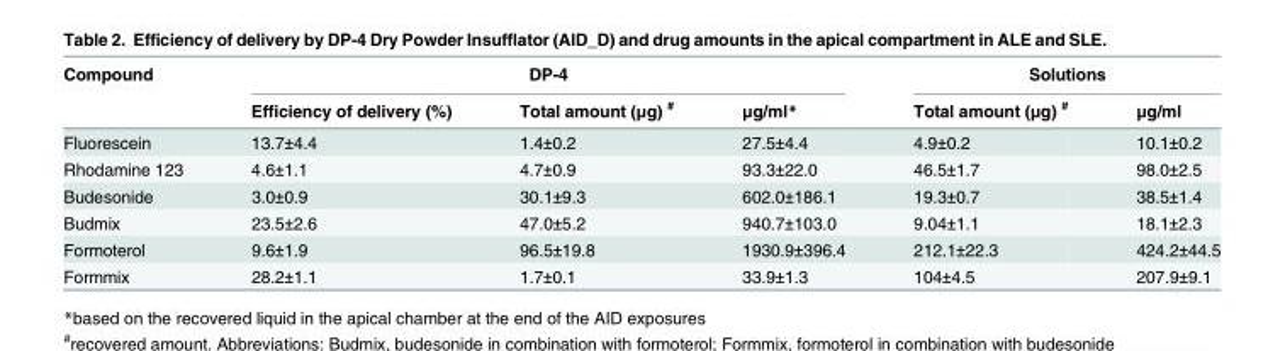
<table><thead><tr><td rowspan="2">Compound</td><td colspan="3">DP-4</td><td colspan="2">Solutions</td></tr><tr><td>Efficiency of delivery (%)</td><td>Total amount (μg) <sup>#</sup></td><td>μg/ml*</td><td>Total amount (μg) <sup>#</sup></td><td>μg/ml</td></tr></thead><tbody><tr><td>Fluorescein</td><td>13.7±4.4</td><td>1.4±0.2</td><td>27.5±4.4</td><td>4.9±0.2</td><td>10.1±0.2</td></tr><tr><td>Rhodamine 123</td><td>4.6±1.1</td><td>4.7±0.9</td><td>93.3±22.0</td><td>46.5±1.7</td><td>98.0±2.5</td></tr><tr><td>Budesonide</td><td>3.0±0.9</td><td>30.1±9.3</td><td>602.0±186.1</td><td>19.3±0.7</td><td>38.5±1.4</td></tr><tr><td>Budmix</td><td>23.5±2.6</td><td>47.0±5.2</td><td>940.7±103.0</td><td>9.04±1.1</td><td>18.1±2.3</td></tr><tr><td>Formoterol</td><td>9.6±1.9</td><td>96.5±19.8</td><td>1930.9±396.4</td><td>212.1±22.3</td><td>424.2±44.5</td></tr><tr><td>Formmix</td><td>28.2±1.1</td><td>1.7±0.1</td><td>33.9±1.3</td><td>104±4.5</td><td>207.9±9.1</td></tr></tbody></table>